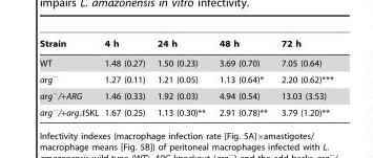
<table><thead><tr><td>Strain</td><td>4 h</td><td>24 h</td><td>48 h</td><td>72 h</td></tr></thead><tbody><tr><td>WT</td><td>1.48 (0.27)</td><td>1.50 (0.23)</td><td>3.69 (0.70)</td><td>7.05 (0.64)</td></tr><tr><td>arg<sup>−</sup></td><td>1.27 (0.11)</td><td>1.21 (0.05)</td><td>1.13 (0.64)*</td><td>2.20 (0.62)***</td></tr><tr><td>arg<sup>−</sup>/+ARG</td><td>1.46 (0.33)</td><td>1.92 (0.03)</td><td>4.94 (0.54)</td><td>13.03 (3.53)</td></tr><tr><td>arg<sup>−</sup>/+argΔSKL</td><td>1.67 (0.25)</td><td>1.13 (0.30)**</td><td>2.91 (0.78)**</td><td>3.79 (1.20)**</td></tr></tbody></table>